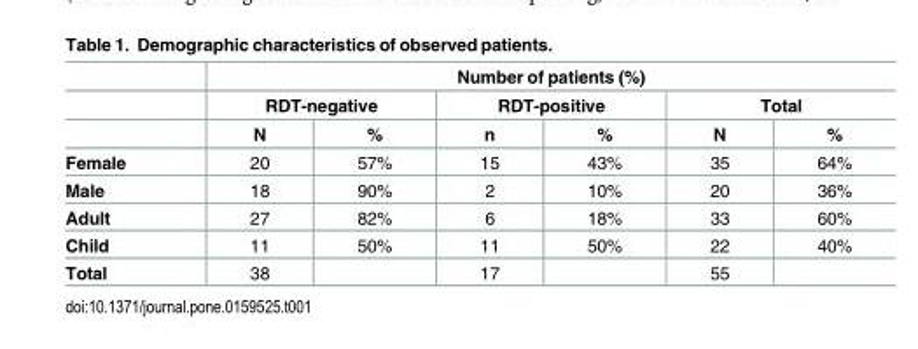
<table><thead><tr><td rowspan="3"></td><td colspan="6">Number of patients (%)</td></tr><tr><td colspan="2">RDT-negative</td><td colspan="2">RDT-positive</td><td colspan="2">Total</td></tr><tr><td>N</td><td>%</td><td>n</td><td>%</td><td>N</td><td>%</td></tr></thead><tbody><tr><td>Female</td><td>20</td><td>57%</td><td>15</td><td>43%</td><td>35</td><td>64%</td></tr><tr><td>Male</td><td>18</td><td>90%</td><td>2</td><td>10%</td><td>20</td><td>36%</td></tr><tr><td>Adult</td><td>27</td><td>82%</td><td>6</td><td>18%</td><td>33</td><td>60%</td></tr><tr><td>Child</td><td>11</td><td>50%</td><td>11</td><td>50%</td><td>22</td><td>40%</td></tr><tr><td>Total</td><td>38</td><td></td><td>17</td><td></td><td>55</td><td></td></tr></tbody></table>